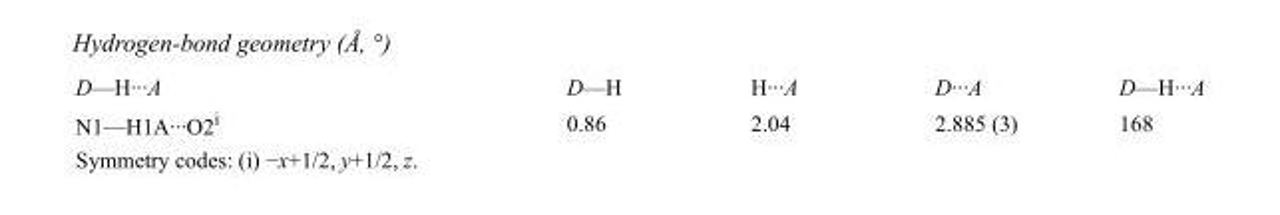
<table><tbody><tr><td>D—H···A</td><td>D—H</td><td>H···A</td><td>D···A</td><td>D—H···A</td></tr><tr><td>N1—H1A···O2<sup>i</sup></td><td>0.86</td><td>2.04</td><td>2.885 (3)</td><td>168</td></tr></tbody></table>